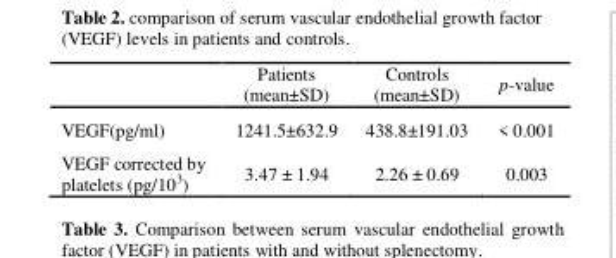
<table><thead><tr><td></td><td>Patients (mean±SD)</td><td>Controls (mean±SD)</td><td>p-value</td></tr></thead><tbody><tr><td>VEGF(pg/ml)</td><td>1241.5±632.9</td><td>438.8±191.03</td><td>&lt; 0.001</td></tr><tr><td>VEGF corrected by platelets (pg/10<sup>3</sup>)</td><td>3.47 ± 1.94</td><td>2.26 ± 0.69</td><td>0.003</td></tr></tbody></table>